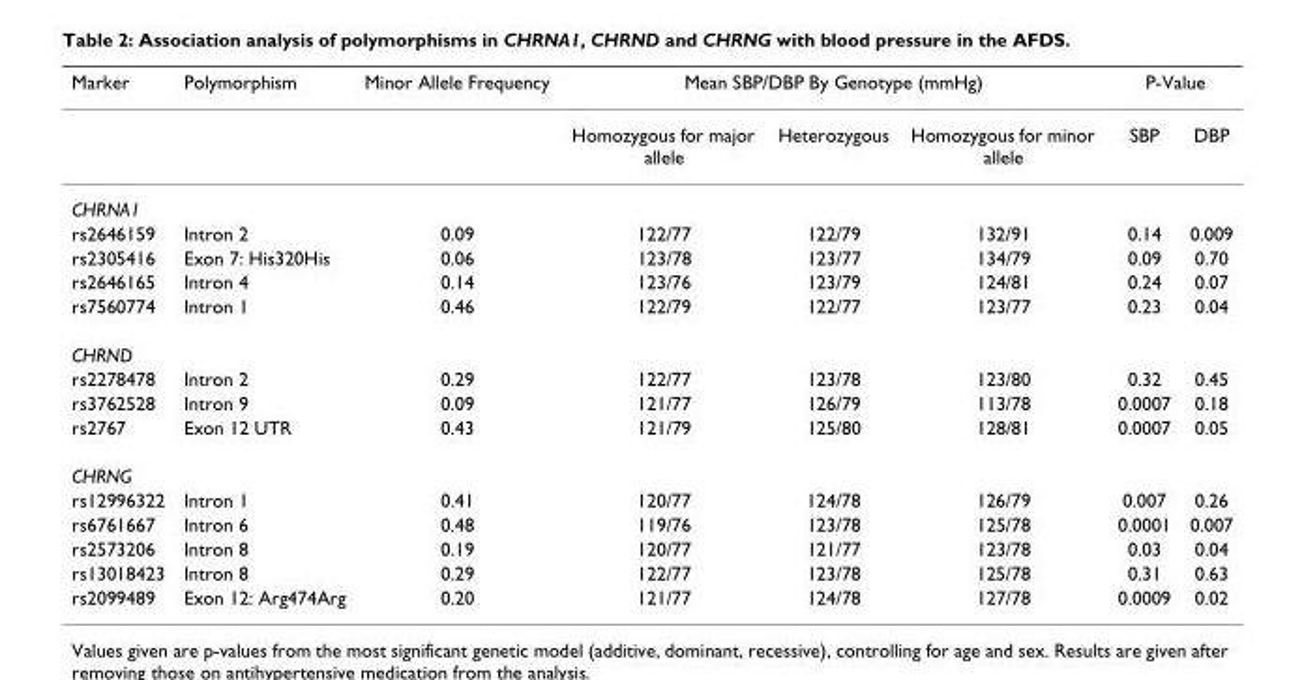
<table><thead><tr><td rowspan="2">Marker</td><td rowspan="2">Polymorphism</td><td rowspan="2">Minor Allele Frequency</td><td colspan="3">Mean SBP/DBP By Genotype (mmHg)</td><td colspan="2">P-Value</td></tr><tr><td>Homozygous for major allele</td><td>Heterozygous</td><td>Homozygous for minor allele</td><td>SBP</td><td>DBP</td></tr></thead><tbody><tr><td colspan="8">CHRNA1</td></tr><tr><td>rs2646159</td><td>Intron 2</td><td>0.09</td><td>122/77</td><td>122/79</td><td>132/91</td><td>0.14</td><td>0.009</td></tr><tr><td>rs2305416</td><td>Exon 7: His320His</td><td>0.06</td><td>123/78</td><td>123/77</td><td>134/79</td><td>0.09</td><td>0.70</td></tr><tr><td>rs2646165</td><td>Intron 4</td><td>0.14</td><td>123/76</td><td>123/79</td><td>124/81</td><td>0.24</td><td>0.07</td></tr><tr><td>rs7560774</td><td>Intron 1</td><td>0.46</td><td>122/79</td><td>122/77</td><td>123/77</td><td>0.23</td><td>0.04</td></tr><tr><td colspan="8">CHRND</td></tr><tr><td>rs2278478</td><td>Intron 2</td><td>0.29</td><td>122/77</td><td>123/78</td><td>123/80</td><td>0.32</td><td>0.45</td></tr><tr><td>rs3762528</td><td>Intron 9</td><td>0.09</td><td>121/77</td><td>126/79</td><td>113/78</td><td>0.0007</td><td>0.18</td></tr><tr><td>rs2767</td><td>Exon 12 UTR</td><td>0.43</td><td>121/79</td><td>125/80</td><td>128/81</td><td>0.0007</td><td>0.05</td></tr><tr><td colspan="8">CHRNG</td></tr><tr><td>rs12996322</td><td>Intron 1</td><td>0.41</td><td>120/77</td><td>124/78</td><td>126/79</td><td>0.007</td><td>0.26</td></tr><tr><td>rs6761667</td><td>Intron 6</td><td>0.48</td><td>119/76</td><td>123/78</td><td>125/78</td><td>0.0001</td><td>0.007</td></tr><tr><td>rs2573206</td><td>Intron 8</td><td>0.19</td><td>120/77</td><td>121/77</td><td>123/78</td><td>0.03</td><td>0.04</td></tr><tr><td>rs13018423</td><td>Intron 8</td><td>0.29</td><td>122/77</td><td>123/78</td><td>125/78</td><td>0.31</td><td>0.63</td></tr><tr><td>rs2099489</td><td>Exon 12: Arg474Arg</td><td>0.20</td><td>121/77</td><td>124/78</td><td>127/78</td><td>0.0009</td><td>0.02</td></tr></tbody></table>